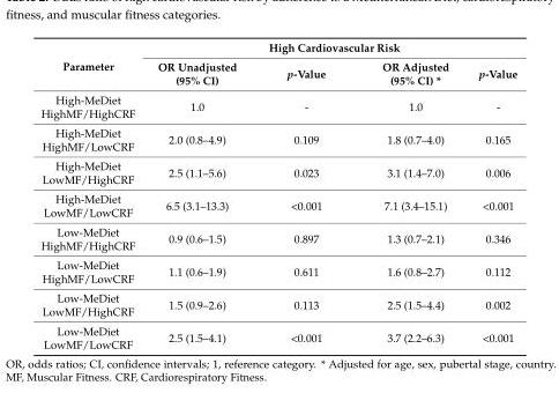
<table><thead><tr><td rowspan="2">Parameter</td><td colspan="4">High Cardiovascular Risk</td></tr><tr><td>OR Unadjusted (95% CI)</td><td>p-Value</td><td>OR Adjusted (95% CI) *</td><td>p-Value</td></tr></thead><tbody><tr><td>High-MeDiet HighMF/HighCRF</td><td>1.0</td><td>-</td><td>1.0</td><td>-</td></tr><tr><td>High-MeDiet HighMF/LowCRF</td><td>2.0 (0.8–4.9)</td><td>0.109</td><td>1.8 (0.7–4.0)</td><td>0.165</td></tr><tr><td>High-MeDiet LowMF/HighCRF</td><td>2.5 (1.1–5.6)</td><td>0.023</td><td>3.1 (1.4–7.0)</td><td>0.006</td></tr><tr><td>High-MeDiet LowMF/LowCRF</td><td>6.5 (3.1–13.3)</td><td>&lt;0.001</td><td>7.1 (3.4–15.1)</td><td>&lt;0.001</td></tr><tr><td>Low-MeDiet HighMF/HighCRF</td><td>0.9 (0.6–1.5)</td><td>0.897</td><td>1.3 (0.7–2.1)</td><td>0.346</td></tr><tr><td>Low-MeDiet HighMF/LowCRF</td><td>1.1 (0.6–1.9)</td><td>0.611</td><td>1.6 (0.8–2.7)</td><td>0.112</td></tr><tr><td>Low-MeDiet LowMF/HighCRF</td><td>1.5 (0.9–2.6)</td><td>0.113</td><td>2.5 (1.5–4.4)</td><td>0.002</td></tr><tr><td>Low-MeDiet LowMF/LowCRF</td><td>2.5 (1.5–4.1)</td><td>&lt;0.001</td><td>3.7 (2.2–6.3)</td><td>&lt;0.001</td></tr></tbody></table>